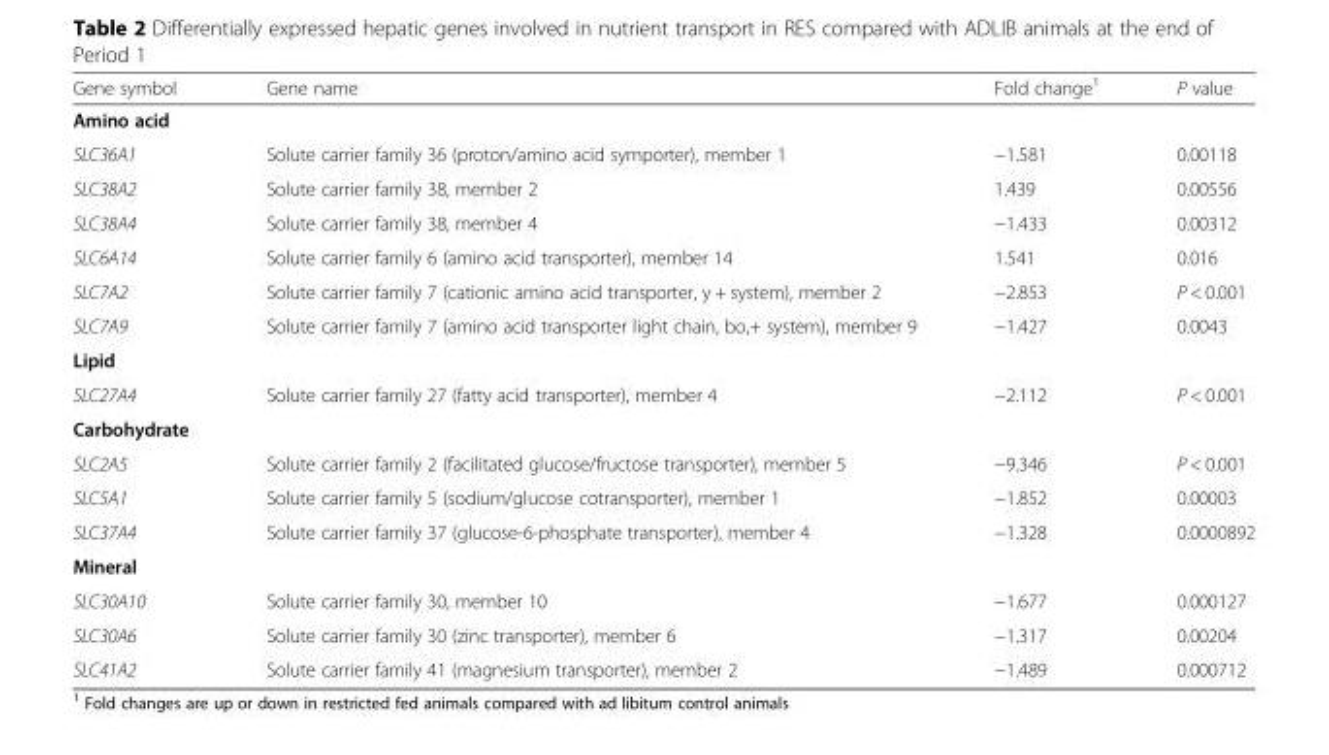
<table><thead><tr><td>Gene symbol</td><td>Gene name</td><td>Fold change<sup>1</sup></td><td>P value</td></tr></thead><tbody><tr><td colspan="4">Amino acid</td></tr><tr><td>SLC36A1</td><td>Solute carrier family 36 (proton/amino acid symporter), member 1</td><td>−1.581</td><td>0.00118</td></tr><tr><td>SLC38A2</td><td>Solute carrier family 38, member 2</td><td>1.439</td><td>0.00556</td></tr><tr><td>SLC38A4</td><td>Solute carrier family 38, member 4</td><td>−1.433</td><td>0.00312</td></tr><tr><td>SLC6A14</td><td>Solute carrier family 6 (amino acid transporter), member 14</td><td>1.541</td><td>0.016</td></tr><tr><td>SLC7A2</td><td>Solute carrier family 7 (cationic amino acid transporter, y + system), member 2</td><td>−2.853</td><td>P &lt; 0.001</td></tr><tr><td>SLC7A9</td><td>Solute carrier family 7 (amino acid transporter light chain, bo,+ system), member 9</td><td>−1.427</td><td>0.0043</td></tr><tr><td colspan="4">Lipid</td></tr><tr><td>SLC27A4</td><td>Solute carrier family 27 (fatty acid transporter), member 4</td><td>−2.112</td><td>P &lt; 0.001</td></tr><tr><td colspan="4">Carbohydrate</td></tr><tr><td>SLC2A5</td><td>Solute carrier family 2 (facilitated glucose/fructose transporter), member 5</td><td>−9.346</td><td>P &lt; 0.001</td></tr><tr><td>SLC5A1</td><td>Solute carrier family 5 (sodium/glucose cotransporter), member 1</td><td>−1.852</td><td>0.00003</td></tr><tr><td>SLC37A4</td><td>Solute carrier family 37 (glucose-6-phosphate transporter), member 4</td><td>−1.328</td><td>0.0000892</td></tr><tr><td colspan="4">Mineral</td></tr><tr><td>SLC30A10</td><td>Solute carrier family 30, member 10</td><td>−1.677</td><td>0.000127</td></tr><tr><td>SLC30A6</td><td>Solute carrier family 30 (zinc transporter), member 6</td><td>−1.317</td><td>0.00204</td></tr><tr><td>SLC41A2</td><td>Solute carrier family 41 (magnesium transporter), member 2</td><td>−1.489</td><td>0.000712</td></tr></tbody></table>